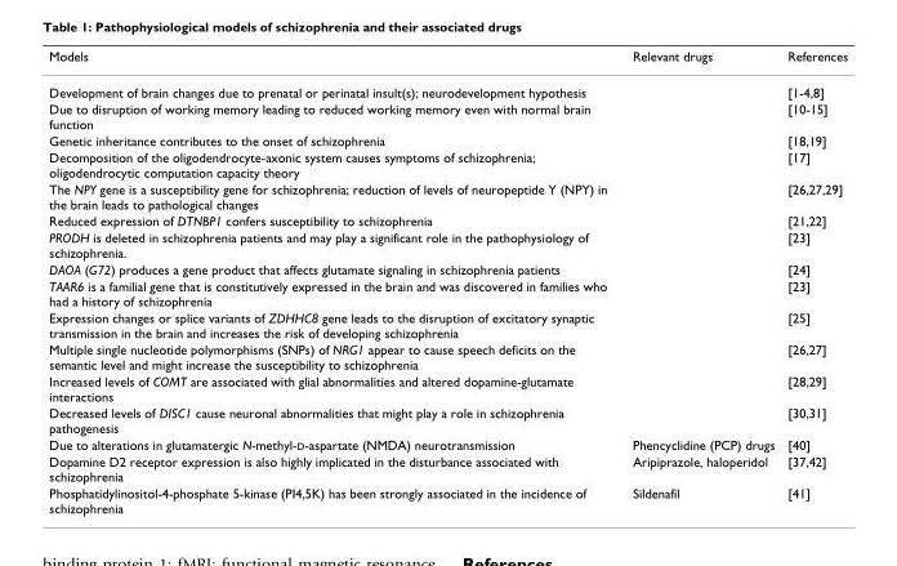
<table><thead><tr><td>Models</td><td>Relevant drugs</td><td>References</td></tr></thead><tbody><tr><td>Development of brain changes due to prenatal or perinatal insult(s); neurodevelopment hypothesis</td><td></td><td>[1-4,8]</td></tr><tr><td>Due to disruption of working memory leading to reduced working memory even with normal brain function</td><td></td><td>[10-15]</td></tr><tr><td>Genetic inheritance contributes to the onset of schizophrenia</td><td></td><td>[18,19]</td></tr><tr><td>Decomposition of the oligodendrocyte-axonic system causes symptoms of schizophrenia; oligodendrocytic computation capacity theory</td><td></td><td>[17]</td></tr><tr><td>The NPY gene is a susceptibility gene for schizophrenia; reduction of levels of neuropeptide Y (NPY) in the brain leads to pathological changes</td><td></td><td>[26,27,29]</td></tr><tr><td>Reduced expression of DTNBP1 confers susceptibility to schizophrenia</td><td></td><td>[21,22]</td></tr><tr><td>PRODH is deleted in schizophrenia patients and may play a significant role in the pathophysiology of schizophrenia.</td><td></td><td>[23]</td></tr><tr><td>DAOA (G72) produces a gene product that affects glutamate signaling in schizophrenia patients</td><td></td><td>[24]</td></tr><tr><td>TAAR6 is a familial gene that is constitutively expressed in the brain and was discovered in families who had a history of schizophrenia</td><td></td><td>[23]</td></tr><tr><td>Expression changes or splice variants of ZDHHC8 gene leads to the disruption of excitatory synaptic transmission in the brain and increases the risk of developing schizophrenia</td><td></td><td>[25]</td></tr><tr><td>Multiple single nucleotide polymorphisms (SNPs) of NRG1 appear to cause speech deficits on the semantic level and might increase the susceptibility to schizophrenia</td><td></td><td>[26,27]</td></tr><tr><td>Increased levels of COMT are associated with glial abnormalities and altered dopamine-glutamate interactions</td><td></td><td>[28,29]</td></tr><tr><td>Decreased levels of DISC1 cause neuronal abnormalities that might play a role in schizophrenia pathogenesis</td><td></td><td>[30,31]</td></tr><tr><td>Due to alterations in glutamatergic N-methyl-D-aspartate (NMDA) neurotransmission</td><td>Phencyclidine (PCP) drugs</td><td>[40]</td></tr><tr><td>Dopamine D2 receptor expression is also highly implicated in the disturbance associated with schizophrenia</td><td>Aripiprazole, haloperidol</td><td>[37,42]</td></tr><tr><td>Phosphatidylinositol-4-phosphate 5-kinase (PI4,5K) has been strongly associated in the incidence of schizophrenia</td><td>Sildenafil</td><td>[41]</td></tr></tbody></table>